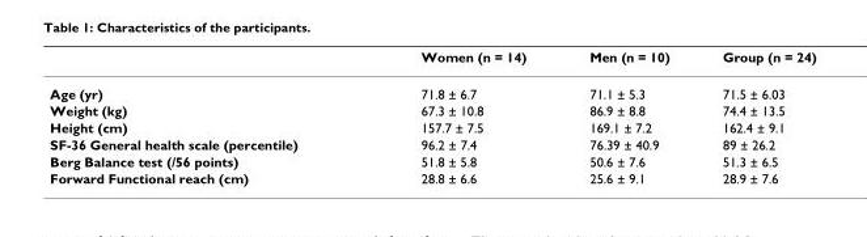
<table><thead><tr><td></td><td>Women (n = 14)</td><td>Men (n = 10)</td><td>Group (n = 24)</td></tr></thead><tbody><tr><td>Age (yr)</td><td>71.8 ± 6.7</td><td>71.1 ± 5.3</td><td>71.5 ± 6.03</td></tr><tr><td>Weight (kg)</td><td>67.3 ± 10.8</td><td>86.9 ± 8.8</td><td>74.4 ± 13.5</td></tr><tr><td>Height (cm)</td><td>157.7 ± 7.5</td><td>169.1 ± 7.2</td><td>162.4 ± 9.1</td></tr><tr><td>SF-36 General health scale (percentile)</td><td>96.2 ± 7.4</td><td>76.39 ± 40.9</td><td>89 ± 26.2</td></tr><tr><td>Berg Balance test (/56 points)</td><td>51.8 ± 5.8</td><td>50.6 ± 7.6</td><td>51.3 ± 6.5</td></tr><tr><td>Forward Functional reach (cm)</td><td>28.8 ± 6.6</td><td>25.6 ± 9.1</td><td>28.9 ± 7.6</td></tr></tbody></table>